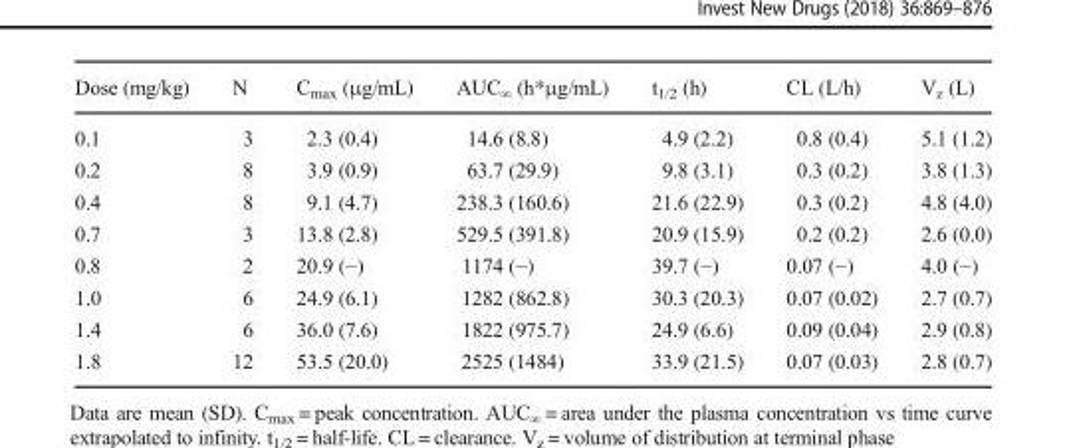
<table><thead><tr><td>Dose (mg/kg)</td><td>N</td><td>C<sub>max</sub> (μg/mL)</td><td>AUC<sub>∞</sub> (h*μg/mL)</td><td>t<sub>1/2</sub> (h)</td><td>CL (L/h)</td><td>V<sub>z</sub> (L)</td></tr></thead><tbody><tr><td>0.1</td><td>3</td><td>2.3 (0.4)</td><td>14.6 (8.8)</td><td>4.9 (2.2)</td><td>0.8 (0.4)</td><td>5.1 (1.2)</td></tr><tr><td>0.2</td><td>8</td><td>3.9 (0.9)</td><td>63.7 (29.9)</td><td>9.8 (3.1)</td><td>0.3 (0.2)</td><td>3.8 (1.3)</td></tr><tr><td>0.4</td><td>8</td><td>9.1 (4.7)</td><td>238.3 (160.6)</td><td>21.6 (22.9)</td><td>0.3 (0.2)</td><td>4.8 (4.0)</td></tr><tr><td>0.7</td><td>3</td><td>13.8 (2.8)</td><td>529.5 (391.8)</td><td>20.9 (15.9)</td><td>0.2 (0.2)</td><td>2.6 (0.0)</td></tr><tr><td>0.8</td><td>2</td><td>20.9 (−)</td><td>1174 (−)</td><td>39.7 (−)</td><td>0.07 (−)</td><td>4.0 (−)</td></tr><tr><td>1.0</td><td>6</td><td>24.9 (6.1)</td><td>1282 (862.8)</td><td>30.3 (20.3)</td><td>0.07 (0.02)</td><td>2.7 (0.7)</td></tr><tr><td>1.4</td><td>6</td><td>36.0 (7.6)</td><td>1822 (975.7)</td><td>24.9 (6.6)</td><td>0.09 (0.04)</td><td>2.9 (0.8)</td></tr><tr><td>1.8</td><td>12</td><td>53.5 (20.0)</td><td>2525 (1484)</td><td>33.9 (21.5)</td><td>0.07 (0.03)</td><td>2.8 (0.7)</td></tr></tbody></table>